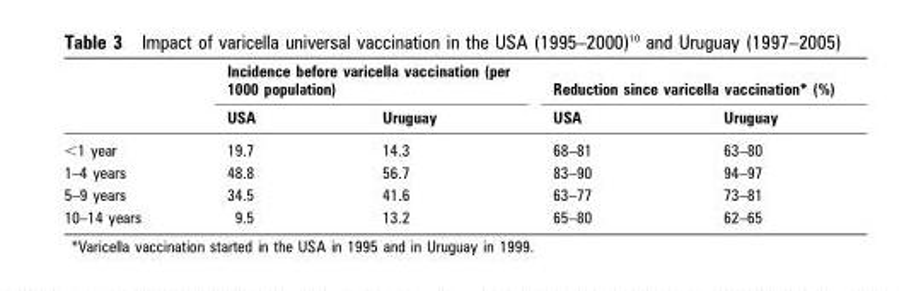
<table><thead><tr><td rowspan="2"></td><td colspan="2">Incidence before varicella vaccination (per 1000 population)</td><td colspan="2">Reduction since varicella vaccination* (%)</td></tr><tr><td>USA</td><td>Uruguay</td><td>USA</td><td>Uruguay</td></tr></thead><tbody><tr><td>&lt;1 year</td><td>19.7</td><td>14.3</td><td>68–81</td><td>63–80</td></tr><tr><td>1–4 years</td><td>48.8</td><td>56.7</td><td>83–90</td><td>94–97</td></tr><tr><td>5–9 years</td><td>34.5</td><td>41.6</td><td>63–77</td><td>73–81</td></tr><tr><td>10–14 years</td><td>9.5</td><td>13.2</td><td>65–80</td><td>62–65</td></tr></tbody></table>